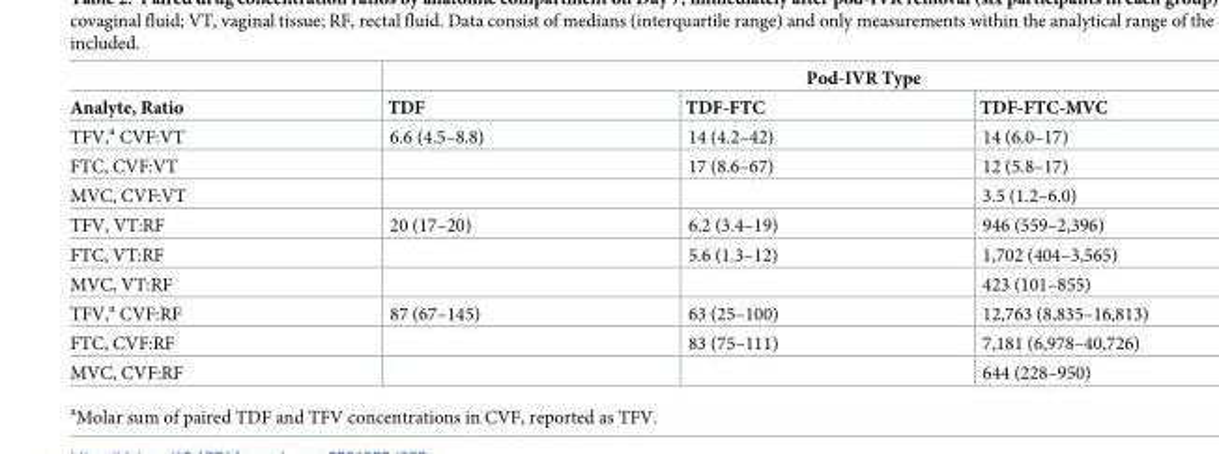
<table><thead><tr><td rowspan="2">Analyte, Ratio</td><td colspan="3">Pod-IVR Type</td></tr><tr><td>TDF</td><td>TDF-FTC</td><td>TDF-FTC-MVC</td></tr></thead><tbody><tr><td>TFV,<sup>a</sup> CVF:VT</td><td>6.6 (4.5–8.8)</td><td>14 (4.2–42)</td><td>14 (6.0–17)</td></tr><tr><td>FTC, CVF:VT</td><td></td><td>17 (8.6–67)</td><td>12 (5.8–17)</td></tr><tr><td>MVC, CVF:VT</td><td></td><td></td><td>3.5 (1.2–6.0)</td></tr><tr><td>TFV, VT:RF</td><td>20 (17–20)</td><td>6.2 (3.4–19)</td><td>946 (559–2,396)</td></tr><tr><td>FTC, VT:RF</td><td></td><td>5.6 (1.3–12)</td><td>1,702 (404–3,565)</td></tr><tr><td>MVC, VT:RF</td><td></td><td></td><td>423 (101–855)</td></tr><tr><td>TFV,<sup>a</sup> CVF:RF</td><td>87 (67–145)</td><td>63 (25–100)</td><td>12,763 (8,835–16,813)</td></tr><tr><td>FTC, CVF:RF</td><td></td><td>83 (75–111)</td><td>7,181 (6,978–40,726)</td></tr><tr><td>MVC, CVF:RF</td><td></td><td></td><td>644 (228–950)</td></tr></tbody></table>